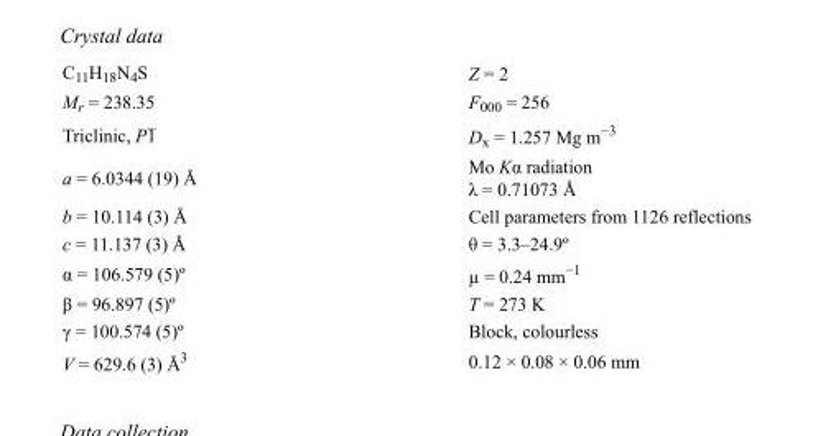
<table><tbody><tr><td>C<sub>11</sub>H<sub>18</sub>N<sub>4</sub>S</td><td>Z = 2</td></tr><tr><td>M<sub>r</sub> = 238.35</td><td>F000 = 256</td></tr><tr><td>Triclinic, P1</td><td>D<sub>x</sub> = 1.257 Mg m<sup>−3</sup></td></tr><tr><td>a = 6.0344 (19) Å</td><td>Mo Kα radiation λ = 0.71073 Å</td></tr><tr><td>b = 10.114 (3) Å</td><td>Cell parameters from 1126 reflections</td></tr><tr><td>c = 11.137 (3) Å</td><td>θ = 3.3–24.9º</td></tr><tr><td>α = 106.579 (5)º</td><td>µ = 0.24 mm<sup>−1</sup></td></tr><tr><td>β = 96.897 (5)º</td><td>T = 273 K</td></tr><tr><td>γ = 100.574 (5)º</td><td>Block, colourless</td></tr><tr><td>V = 629.6 (3) Å<sup>3</sup></td><td>0.12 × 0.08 × 0.06 mm</td></tr></tbody></table>